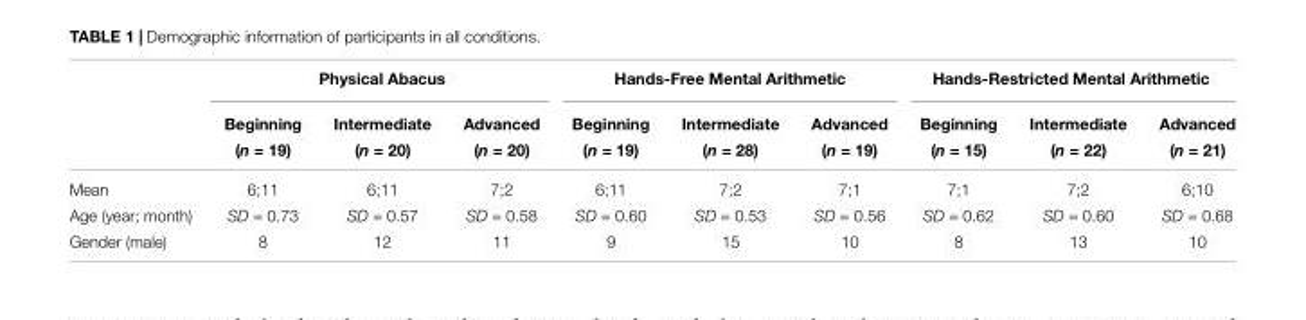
<table><thead><tr><td rowspan="2"></td><td colspan="3">Physical Abacus</td><td colspan="3">Hands-Free Mental Arithmetic</td><td colspan="3">Hands-Restricted Mental Arithmetic</td></tr><tr><td>Beginning (n = 19)</td><td>Intermediate (n = 20)</td><td>Advanced (n = 20)</td><td>Beginning (n = 19)</td><td>Intermediate (n = 28)</td><td>Advanced (n = 19)</td><td>Beginning (n = 15)</td><td>Intermediate (n = 22)</td><td>Advanced (n = 21)</td></tr></thead><tbody><tr><td>Mean</td><td>6;11</td><td>6;11</td><td>7;2</td><td>6;11</td><td>7;2</td><td>7;1</td><td>7;1</td><td>7;2</td><td>6;10</td></tr><tr><td>Age (year; month)</td><td>SD = 0.73</td><td>SD = 0.57</td><td>SD = 0.58</td><td>SD = 0.60</td><td>SD = 0.53</td><td>SD = 0.56</td><td>SD = 0.62</td><td>SD = 0.60</td><td>SD = 0.68</td></tr><tr><td>Gender (male)</td><td>8</td><td>12</td><td>11</td><td>9</td><td>15</td><td>10</td><td>8</td><td>13</td><td>10</td></tr></tbody></table>